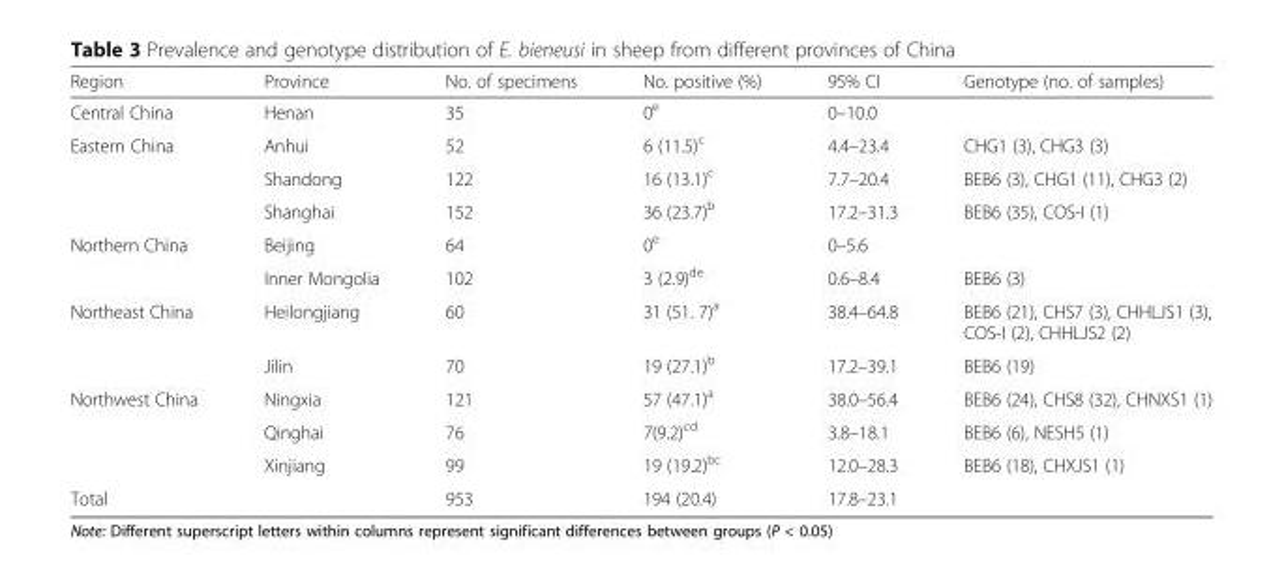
<table><thead><tr><td>Region</td><td>Province</td><td>No. of specimens</td><td>No. positive (%)</td><td>95% CI</td><td>Genotype (no. of samples)</td></tr></thead><tbody><tr><td>Central China</td><td>Henan</td><td>35</td><td>0<sup>e</sup></td><td>0–10.0</td><td></td></tr><tr><td rowspan="3">Eastern China</td><td>Anhui</td><td>52</td><td>6 (11.5)<sup>c</sup></td><td>4.4–23.4</td><td>CHG1 (3), CHG3 (3)</td></tr><tr><td>Shandong</td><td>122</td><td>16 (13.1)<sup>c</sup></td><td>7.7–20.4</td><td>BEB6 (3), CHG1 (11), CHG3 (2)</td></tr><tr><td>Shanghai</td><td>152</td><td>36 (23.7)<sup>b</sup></td><td>17.2–31.3</td><td>BEB6 (35), COS-I (1)</td></tr><tr><td rowspan="2">Northern China</td><td>Beijing</td><td>64</td><td>0<sup>e</sup></td><td>0–5.6</td><td></td></tr><tr><td>Inner Mongolia</td><td>102</td><td>3 (2.9)<sup>de</sup></td><td>0.6–8.4</td><td>BEB6 (3)</td></tr><tr><td rowspan="2">Northeast China</td><td>Heilongjiang</td><td>60</td><td>31 (51. 7)<sup>a</sup></td><td>38.4–64.8</td><td>BEB6 (21), CHS7 (3), CHHLJS1 (3), COS-I (2), CHHLJS2 (2)</td></tr><tr><td>Jilin</td><td>70</td><td>19 (27.1)<sup>b</sup></td><td>17.2–39.1</td><td>BEB6 (19)</td></tr><tr><td rowspan="3">Northwest China</td><td>Ningxia</td><td>121</td><td>57 (47.1)<sup>a</sup></td><td>38.0–56.4</td><td>BEB6 (24), CHS8 (32), CHNXS1 (1)</td></tr><tr><td>Qinghai</td><td>76</td><td>7(9.2)<sup>cd</sup></td><td>3.8–18.1</td><td>BEB6 (6), NESH5 (1)</td></tr><tr><td>Xinjiang</td><td>99</td><td>19 (19.2)<sup>bc</sup></td><td>12.0–28.3</td><td>BEB6 (18), CHXJS1 (1)</td></tr><tr><td>Total</td><td></td><td>953</td><td>194 (20.4)</td><td>17.8–23.1</td><td></td></tr></tbody></table>